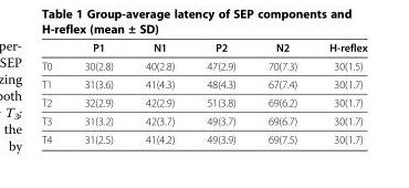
<table><thead><tr><td></td><td>P1</td><td>N1</td><td>P2</td><td>N2</td><td>H-reflex</td></tr></thead><tbody><tr><td>T0</td><td>30(2.8)</td><td>40(2.8)</td><td>47(2.9)</td><td>70(7.3)</td><td>30(1.5)</td></tr><tr><td>T1</td><td>31(3.6)</td><td>41(4.3)</td><td>48(4.3)</td><td>67(7.4)</td><td>30(1.7)</td></tr><tr><td>T2</td><td>32(2.9)</td><td>42(2.9)</td><td>51(3.8)</td><td>69(6.2)</td><td>30(1.7)</td></tr><tr><td>T3</td><td>31(3.2)</td><td>42(3.7)</td><td>49(3.7)</td><td>69(6.7)</td><td>30(1.7)</td></tr><tr><td>T4</td><td>31(2.5)</td><td>41(4.2)</td><td>49(3.9)</td><td>69(7.5)</td><td>30(1.7)</td></tr></tbody></table>